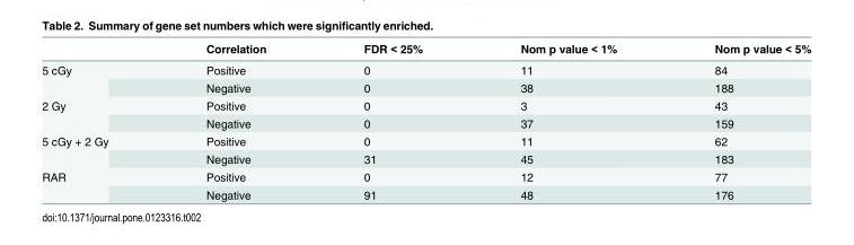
<table><thead><tr><td></td><td>Correlation</td><td>FDR &lt; 25%</td><td>Nom p value &lt; 1%</td><td>Nom p value &lt; 5%</td></tr></thead><tbody><tr><td rowspan="2">5 cGy</td><td>Positive</td><td>0</td><td>11</td><td>84</td></tr><tr><td>Negative</td><td>0</td><td>38</td><td>188</td></tr><tr><td rowspan="2">2 Gy</td><td>Positive</td><td>0</td><td>3</td><td>43</td></tr><tr><td>Negative</td><td>0</td><td>37</td><td>159</td></tr><tr><td rowspan="2">5 cGy + 2 Gy</td><td>Positive</td><td>0</td><td>11</td><td>62</td></tr><tr><td>Negative</td><td>31</td><td>45</td><td>183</td></tr><tr><td rowspan="2">RAR</td><td>Positive</td><td>0</td><td>12</td><td>77</td></tr><tr><td>Negative</td><td>91</td><td>48</td><td>176</td></tr></tbody></table>